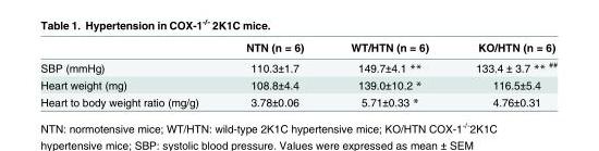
<table><thead><tr><td></td><td>NTN (n = 6)</td><td>WT/HTN (n = 6)</td><td>KO/HTN (n = 6)</td></tr></thead><tbody><tr><td>SBP (mmHg)</td><td>110.3±1.7</td><td>149.7±4.1 **</td><td>133.4 ± 3.7 ** <sup>##</sup></td></tr><tr><td>Heart weight (mg)</td><td>108.8±4.4</td><td>139.0±10.2 *</td><td>116.5±5.4</td></tr><tr><td>Heart to body weight ratio (mg/g)</td><td>3.78±0.06</td><td>5.71±0.33 *</td><td>4.76±0.31</td></tr></tbody></table>